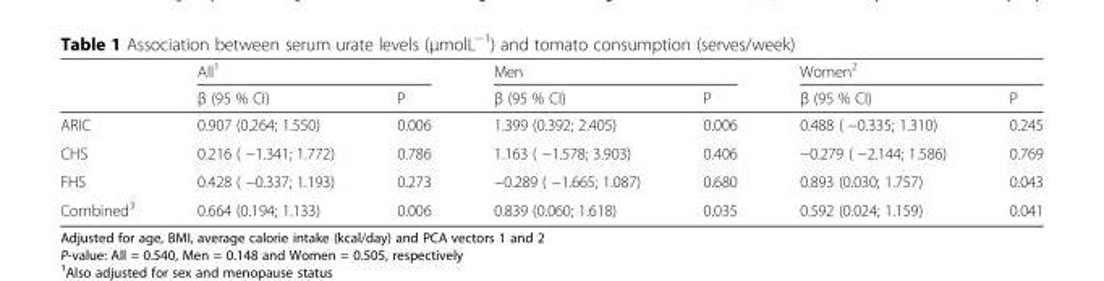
<table><thead><tr><td rowspan="2"></td><td colspan="2">All<sup>1</sup></td><td colspan="2">Men</td><td colspan="2">Women<sup>2</sup></td></tr><tr><td>β (95 % CI)</td><td>P</td><td>β (95 % CI)</td><td>P</td><td>β (95 % CI)</td><td>P</td></tr></thead><tbody><tr><td>ARIC</td><td>0.907 (0.264; 1.550)</td><td>0.006</td><td>1.399 (0.392; 2.405)</td><td>0.006</td><td>0.488 ( −0.335; 1.310)</td><td>0.245</td></tr><tr><td>CHS</td><td>0.216 ( −1.341; 1.772)</td><td>0.786</td><td>1.163 ( −1.578; 3.903)</td><td>0.406</td><td>−0.279 ( −2.144; 1.586)</td><td>0.769</td></tr><tr><td>FHS</td><td>0.428 ( −0.337; 1.193)</td><td>0.273</td><td>−0.289 ( −1.665; 1.087)</td><td>0.680</td><td>0.893 (0.030; 1.757)</td><td>0.043</td></tr><tr><td>Combined<sup>3</sup></td><td>0.664 (0.194; 1.133)</td><td>0.006</td><td>0.839 (0.060; 1.618)</td><td>0.035</td><td>0.592 (0.024; 1.159)</td><td>0.041</td></tr></tbody></table>